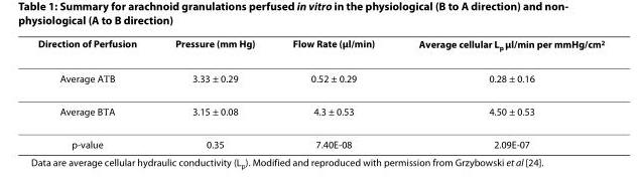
<table><thead><tr><td>Direction of Perfusion</td><td>Pressure (mm Hg)</td><td>Flow Rate (μl/min)</td><td>Average cellular L<sub>p</sub> μl/min per mmHg/cm<sup>2</sup></td></tr></thead><tbody><tr><td>Average A→B</td><td>3.33 ± 0.29</td><td>0.52 ± 0.29</td><td>0.28 ± 0.16</td></tr><tr><td>Average B→A</td><td>3.15 ± 0.08</td><td>4.3 ± 0.53</td><td>4.50 ± 0.53</td></tr><tr><td>p-value</td><td>0.35</td><td>7.40E-08</td><td>2.09E-07</td></tr></tbody></table>